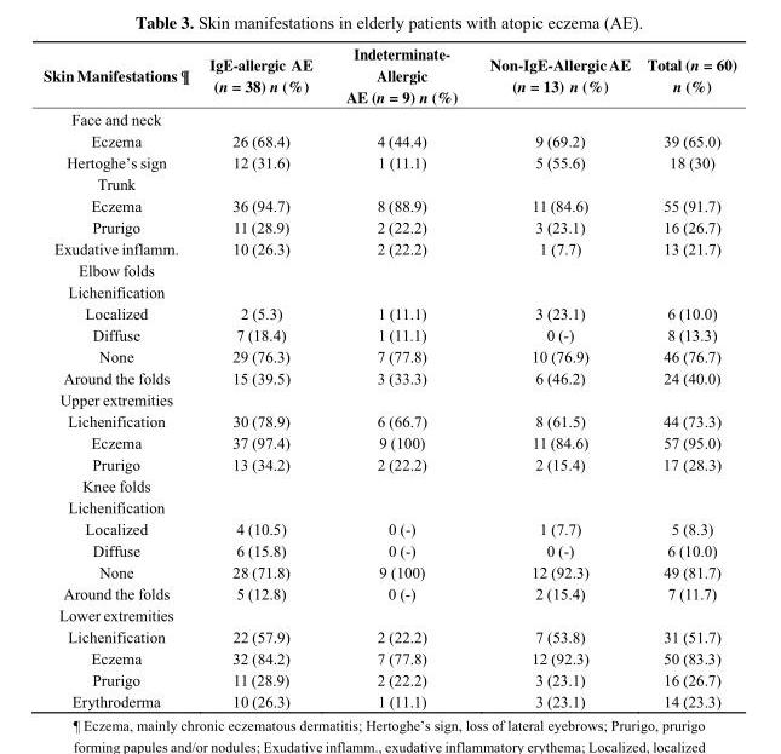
<table><thead><tr><td>Skin Manifestations ¶</td><td>IgE-allergic AE (n = 38) n (%)</td><td>Indeterminate- Allergic AE (n = 9) n (%)</td><td>Non-IgE-Allergic AE (n = 13) n (%)</td><td>Total (n = 60) n (%)</td></tr></thead><tbody><tr><td colspan="5">Face and neck</td></tr><tr><td>Eczema</td><td>26 (68.4)</td><td>4 (44.4)</td><td>9 (69.2)</td><td>39 (65.0)</td></tr><tr><td>Hertoghe’s sign</td><td>12 (31.6)</td><td>1 (11.1)</td><td>5 (55.6)</td><td>18 (30)</td></tr><tr><td colspan="5">Trunk</td></tr><tr><td>Eczema</td><td>36 (94.7)</td><td>8 (88.9)</td><td>11 (84.6)</td><td>55 (91.7)</td></tr><tr><td>Prurigo</td><td>11 (28.9)</td><td>2 (22.2)</td><td>3 (23.1)</td><td>16 (26.7)</td></tr><tr><td>Exudative inflamm.</td><td>10 (26.3)</td><td>2 (22.2)</td><td>1 (7.7)</td><td>13 (21.7)</td></tr><tr><td colspan="5">Elbow folds</td></tr><tr><td colspan="5">Lichenification</td></tr><tr><td>Localized</td><td>2 (5.3)</td><td>1 (11.1)</td><td>3 (23.1)</td><td>6 (10.0)</td></tr><tr><td>Diffuse</td><td>7 (18.4)</td><td>1 (11.1)</td><td>0 (-)</td><td>8 (13.3)</td></tr><tr><td>None</td><td>29 (76.3)</td><td>7 (77.8)</td><td>10 (76.9)</td><td>46 (76.7)</td></tr><tr><td>Around the folds</td><td>15 (39.5)</td><td>3 (33.3)</td><td>6 (46.2)</td><td>24 (40.0)</td></tr><tr><td colspan="5">Upper extremities</td></tr><tr><td>Lichenification</td><td>30 (78.9)</td><td>6 (66.7)</td><td>8 (61.5)</td><td>44 (73.3)</td></tr><tr><td>Eczema</td><td>37 (97.4)</td><td>9 (100)</td><td>11 (84.6)</td><td>57 (95.0)</td></tr><tr><td>Prurigo</td><td>13 (34.2)</td><td>2 (22.2)</td><td>2 (15.4)</td><td>17 (28.3)</td></tr><tr><td colspan="5">Knee folds</td></tr><tr><td colspan="5">Lichenification</td></tr><tr><td>Localized</td><td>4 (10.5)</td><td>0 (-)</td><td>1 (7.7)</td><td>5 (8.3)</td></tr><tr><td>Diffuse</td><td>6 (15.8)</td><td>0 (-)</td><td>0 (-)</td><td>6 (10.0)</td></tr><tr><td>None</td><td>28 (71.8)</td><td>9 (100)</td><td>12 (92.3)</td><td>49 (81.7)</td></tr><tr><td>Around the folds</td><td>5 (12.8)</td><td>0 (-)</td><td>2 (15.4)</td><td>7 (11.7)</td></tr><tr><td colspan="5">Lower extremities</td></tr><tr><td>Lichenification</td><td>22 (57.9)</td><td>2 (22.2)</td><td>7 (53.8)</td><td>31 (51.7)</td></tr><tr><td>Eczema</td><td>32 (84.2)</td><td>7 (77.8)</td><td>12 (92.3)</td><td>50 (83.3)</td></tr><tr><td>Prurigo</td><td>11 (28.9)</td><td>2 (22.2)</td><td>3 (23.1)</td><td>16 (26.7)</td></tr><tr><td>Erythroderma</td><td>10 (26.3)</td><td>1 (11.1)</td><td>3 (23.1)</td><td>14 (23.3)</td></tr></tbody></table>